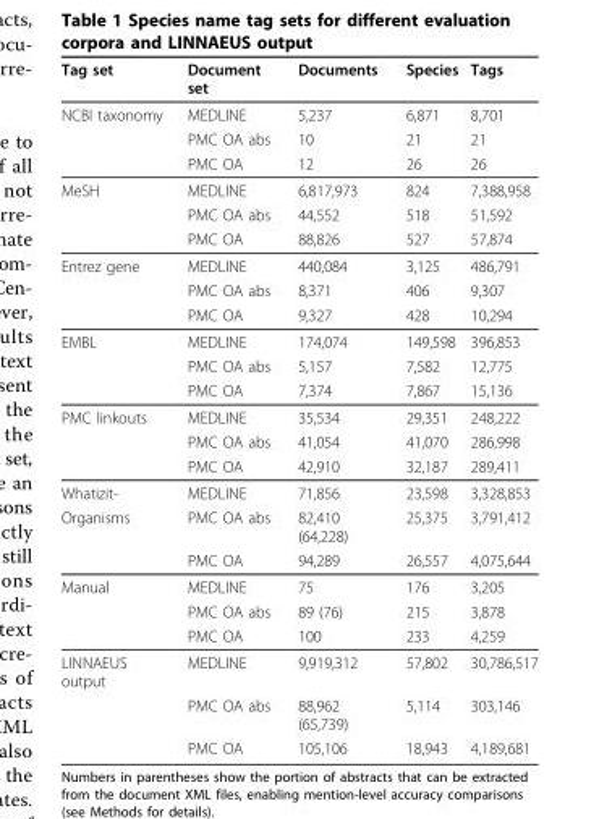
<table><thead><tr><td>Tag set</td><td>Document set</td><td>Documents</td><td>Species</td><td>Tags</td></tr></thead><tbody><tr><td rowspan="3">NCBI taxonomy</td><td>MEDLINE</td><td>5,237</td><td>6,871</td><td>8,701</td></tr><tr><td>PMC OA abs</td><td>10</td><td>21</td><td>21</td></tr><tr><td>PMC OA</td><td>12</td><td>26</td><td>26</td></tr><tr><td rowspan="3">MeSH</td><td>MEDLINE</td><td>6,817,973</td><td>824</td><td>7,388,958</td></tr><tr><td>PMC OA abs</td><td>44,552</td><td>518</td><td>51,592</td></tr><tr><td>PMC OA</td><td>88,826</td><td>527</td><td>57,874</td></tr><tr><td rowspan="3">Entrez gene</td><td>MEDLINE</td><td>440,084</td><td>3,125</td><td>486,791</td></tr><tr><td>PMC OA abs</td><td>8,371</td><td>406</td><td>9,307</td></tr><tr><td>PMC OA</td><td>9,327</td><td>428</td><td>10,294</td></tr><tr><td rowspan="3">EMBL</td><td>MEDLINE</td><td>174,074</td><td>149,598</td><td>396,853</td></tr><tr><td>PMC OA abs</td><td>5,157</td><td>7,582</td><td>12,775</td></tr><tr><td>PMC OA</td><td>7,374</td><td>7,867</td><td>15,136</td></tr><tr><td rowspan="3">PMC linkouts</td><td>MEDLINE</td><td>35,534</td><td>29,351</td><td>248,222</td></tr><tr><td>PMC OA abs</td><td>41,054</td><td>41,070</td><td>286,998</td></tr><tr><td>PMC OA</td><td>42,910</td><td>32,187</td><td>289,411</td></tr><tr><td rowspan="3">Whatizit- Organisms</td><td>MEDLINE</td><td>71,856</td><td>23,598</td><td>3,328,853</td></tr><tr><td>PMC OA abs</td><td>82,410 (64,228)</td><td>25,375</td><td>3,791,412</td></tr><tr><td>PMC OA</td><td>94,289</td><td>26,557</td><td>4,075,644</td></tr><tr><td rowspan="3">Manual</td><td>MEDLINE</td><td>75</td><td>176</td><td>3,205</td></tr><tr><td>PMC OA abs</td><td>89 (76)</td><td>215</td><td>3,878</td></tr><tr><td>PMC OA</td><td>100</td><td>233</td><td>4,259</td></tr><tr><td rowspan="3">LINNAEUS output</td><td>MEDLINE</td><td>9,919,312</td><td>57,802</td><td>30,786,517</td></tr><tr><td>PMC OA abs</td><td>88,962 (65,739)</td><td>5,114</td><td>303,146</td></tr><tr><td>PMC OA</td><td>105,106</td><td>18,943</td><td>4,189,681</td></tr></tbody></table>